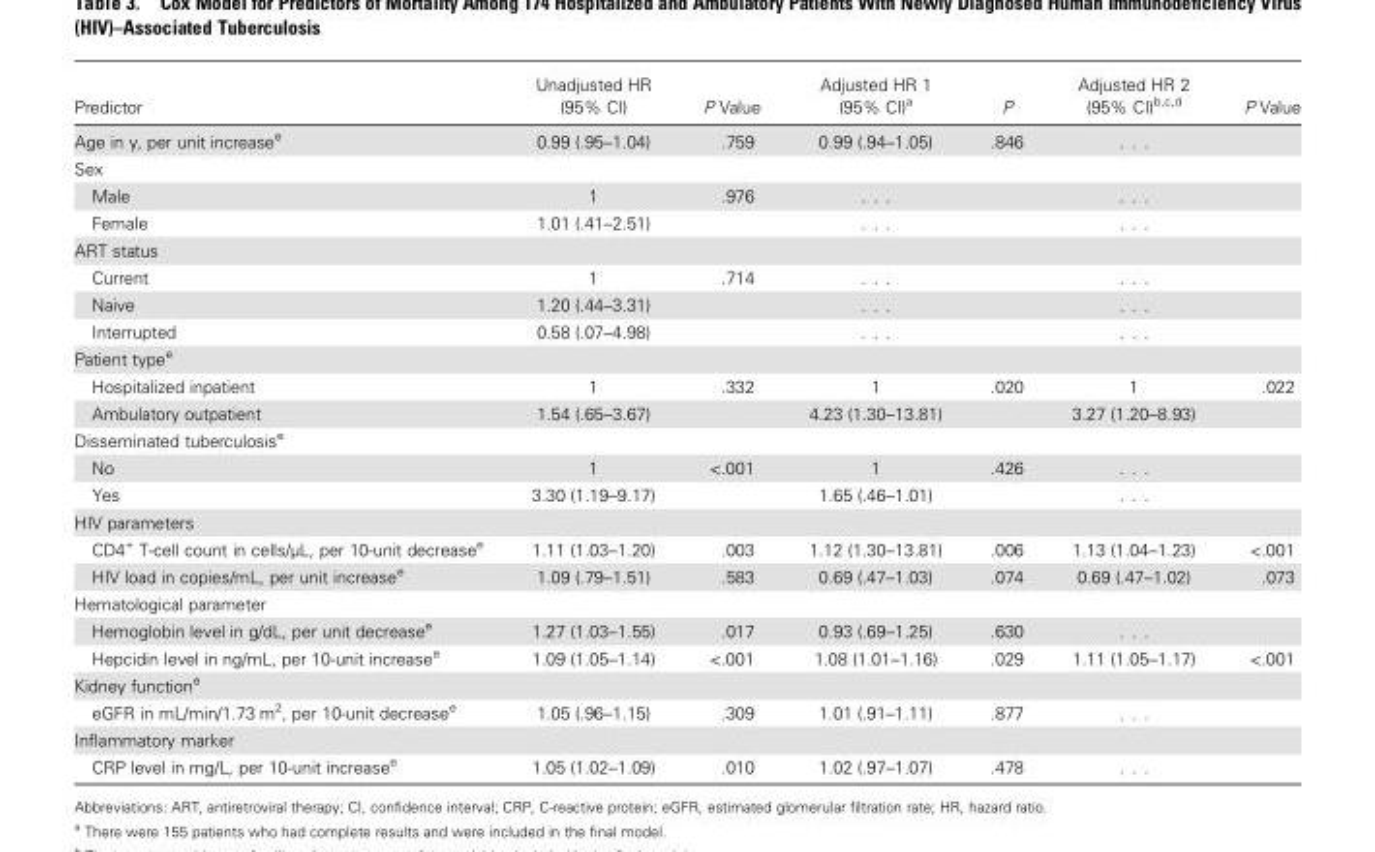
<table><thead><tr><td>Predictor</td><td>Unadjusted HR (95% CI)</td><td>P Value</td><td>Adjusted HR 1 (95% CI)<sup>a</sup></td><td>P</td><td>Adjusted HR 2 (95% CI)<sup>b,c,d</sup></td><td>P Value</td></tr></thead><tbody><tr><td>Age in y, per unit increase<sup>e</sup></td><td>0.99 (.95–1.04)</td><td>.759</td><td>0.99 (.94–1.05)</td><td>.846</td><td>. . .</td><td></td></tr><tr><td colspan="7">Sex</td></tr><tr><td>Male</td><td>1</td><td>.976</td><td>. . .</td><td></td><td>. . .</td><td></td></tr><tr><td>Female</td><td>1.01 (.41–2.51)</td><td></td><td>. . .</td><td></td><td>. . .</td><td></td></tr><tr><td colspan="7">ART status</td></tr><tr><td>Current</td><td>1</td><td>.714</td><td>. . .</td><td></td><td>. . .</td><td></td></tr><tr><td>Naive</td><td>1.20 (.44–3.31)</td><td></td><td>. . .</td><td></td><td>. . .</td><td></td></tr><tr><td>Interrupted</td><td>0.58 (.07–4.98)</td><td></td><td>. . .</td><td></td><td>. . .</td><td></td></tr><tr><td colspan="7">Patient type<sup>e</sup></td></tr><tr><td>Hospitalized inpatient</td><td>1</td><td>.332</td><td>1</td><td>.020</td><td>1</td><td>.022</td></tr><tr><td>Ambulatory outpatient</td><td>1.54 (.65–3.67)</td><td></td><td>4.23 (1.30–13.81)</td><td></td><td>3.27 (1.20–8.93)</td><td></td></tr><tr><td colspan="7">Disseminated tuberculosis<sup>e</sup></td></tr><tr><td>No</td><td>1</td><td>&lt;.001</td><td>1</td><td>.426</td><td>. . .</td><td></td></tr><tr><td>Yes</td><td>3.30 (1.19–9.17)</td><td></td><td>1.65 (.46–1.01)</td><td></td><td>. . .</td><td></td></tr><tr><td colspan="7">HIV parameters</td></tr><tr><td>CD4<sup>+</sup> T-cell count in cells/µL, per 10-unit decrease<sup>e</sup></td><td>1.11 (1.03–1.20)</td><td>.003</td><td>1.12 (1.30–13.81)</td><td>.006</td><td>1.13 (1.04–1.23)</td><td>&lt;.001</td></tr><tr><td>HIV load in copies/mL, per unit increase<sup>e</sup></td><td>1.09 (.79–1.51)</td><td>.583</td><td>0.69 (.47–1.03)</td><td>.074</td><td>0.69 (.47–1.02)</td><td>.073</td></tr><tr><td colspan="7">Hematological parameter</td></tr><tr><td>Hemoglobin level in g/dL, per unit decrease<sup>e</sup></td><td>1.27 (1.03–1.55)</td><td>.017</td><td>0.93 (.69–1.25)</td><td>.630</td><td>. . .</td><td></td></tr><tr><td>Hepcidin level in ng/mL, per 10-unit increase<sup>e</sup></td><td>1.09 (1.05–1.14)</td><td>&lt;.001</td><td>1.08 (1.01–1.16)</td><td>.029</td><td>1.11 (1.05–1.17)</td><td>&lt;.001</td></tr><tr><td colspan="7">Kidney function<sup>e</sup></td></tr><tr><td>eGFR in mL/min/1.73 m<sup>2</sup>, per 10-unit decrease<sup>e</sup></td><td>1.05 (.96–1.15)</td><td>.309</td><td>1.01 (.91–1.11)</td><td>.877</td><td>. . .</td><td></td></tr><tr><td colspan="7">Inflammatory marker</td></tr><tr><td>CRP level in mg/L, per 10-unit increase<sup>e</sup></td><td>1.05 (1.02–1.09)</td><td>.010</td><td>1.02 (.97–1.07)</td><td>.478</td><td>. . .</td><td></td></tr></tbody></table>